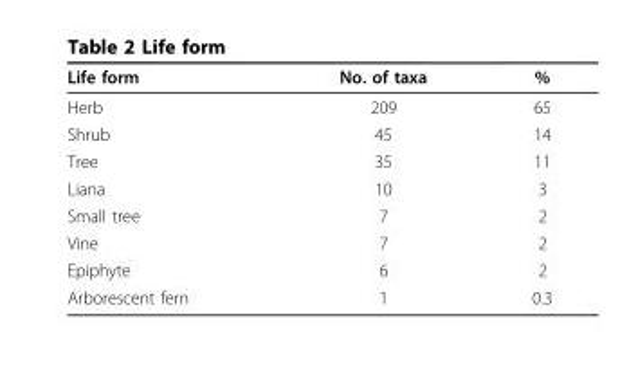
<table><thead><tr><td>Life form</td><td>No. of taxa</td><td>%</td></tr></thead><tbody><tr><td>Herb</td><td>209</td><td>65</td></tr><tr><td>Shrub</td><td>45</td><td>14</td></tr><tr><td>Tree</td><td>35</td><td>11</td></tr><tr><td>Liana</td><td>10</td><td>3</td></tr><tr><td>Small tree</td><td>7</td><td>2</td></tr><tr><td>Vine</td><td>7</td><td>2</td></tr><tr><td>Epiphyte</td><td>6</td><td>2</td></tr><tr><td>Arborescent fern</td><td>1</td><td>0.3</td></tr></tbody></table>